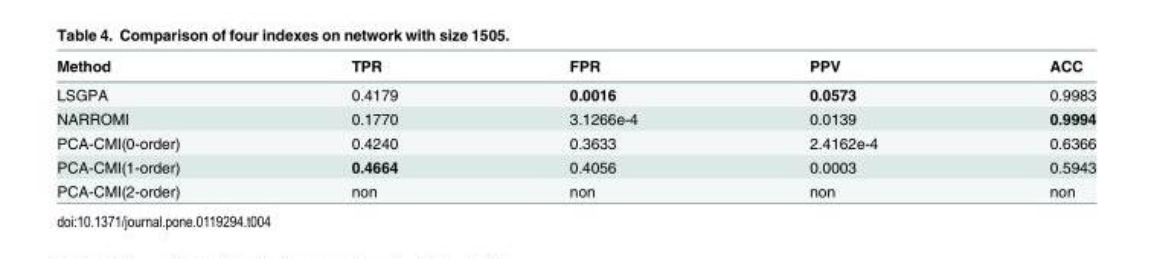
<table><thead><tr><td>Method</td><td>TPR</td><td>FPR</td><td>PPV</td><td>ACC</td></tr></thead><tbody><tr><td>LSGPA</td><td>0.4179</td><td>0.0016</td><td>0.0573</td><td>0.9983</td></tr><tr><td>NARROMI</td><td>0.1770</td><td>3.1266e-4</td><td>0.0139</td><td>0.9994</td></tr><tr><td>PCA-CMI(0-order)</td><td>0.4240</td><td>0.3633</td><td>2.4162e-4</td><td>0.6366</td></tr><tr><td>PCA-CMI(1-order)</td><td>0.4664</td><td>0.4056</td><td>0.0003</td><td>0.5943</td></tr><tr><td>PCA-CMI(2-order)</td><td>non</td><td>non</td><td>non</td><td>non</td></tr></tbody></table>